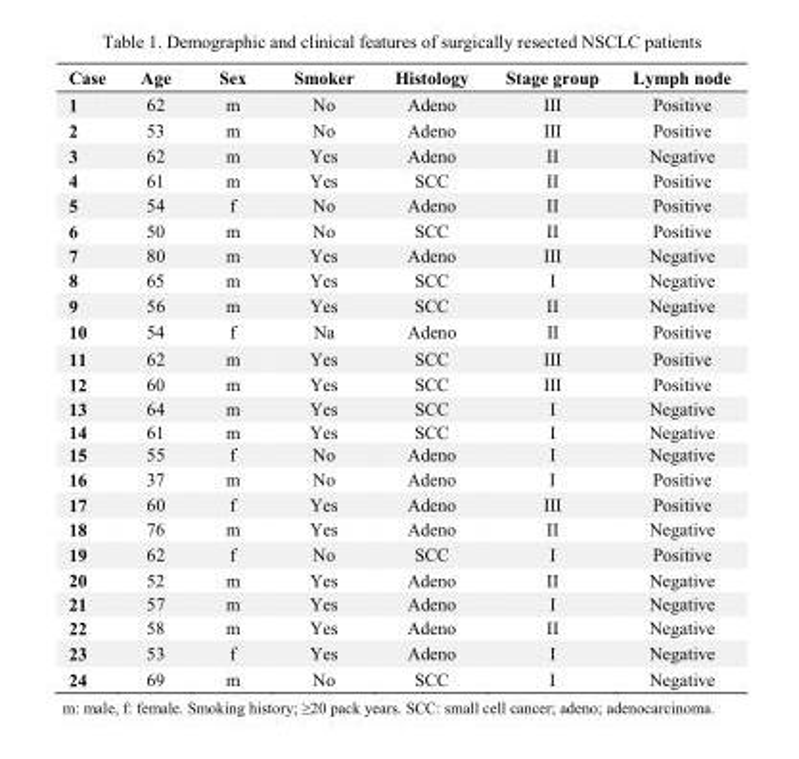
<table><thead><tr><td>Case</td><td>Age</td><td>Sex</td><td>Smoker</td><td>Histology</td><td>Stage group</td><td>Lymph node</td></tr></thead><tbody><tr><td>1</td><td>62</td><td>m</td><td>No</td><td>Adeno</td><td>III</td><td>Positive</td></tr><tr><td>2</td><td>53</td><td>m</td><td>No</td><td>Adeno</td><td>III</td><td>Positive</td></tr><tr><td>3</td><td>62</td><td>m</td><td>Yes</td><td>Adeno</td><td>II</td><td>Negative</td></tr><tr><td>4</td><td>61</td><td>m</td><td>Yes</td><td>SCC</td><td>II</td><td>Positive</td></tr><tr><td>5</td><td>54</td><td>f</td><td>No</td><td>Adeno</td><td>II</td><td>Positive</td></tr><tr><td>6</td><td>50</td><td>m</td><td>No</td><td>SCC</td><td>II</td><td>Positive</td></tr><tr><td>7</td><td>80</td><td>m</td><td>Yes</td><td>Adeno</td><td>III</td><td>Negative</td></tr><tr><td>8</td><td>65</td><td>m</td><td>Yes</td><td>SCC</td><td>I</td><td>Negative</td></tr><tr><td>9</td><td>56</td><td>m</td><td>Yes</td><td>SCC</td><td>II</td><td>Negative</td></tr><tr><td>10</td><td>54</td><td>f</td><td>Na</td><td>Adeno</td><td>II</td><td>Positive</td></tr><tr><td>11</td><td>62</td><td>m</td><td>Yes</td><td>SCC</td><td>III</td><td>Positive</td></tr><tr><td>12</td><td>60</td><td>m</td><td>Yes</td><td>SCC</td><td>III</td><td>Positive</td></tr><tr><td>13</td><td>64</td><td>m</td><td>Yes</td><td>SCC</td><td>I</td><td>Negative</td></tr><tr><td>14</td><td>61</td><td>m</td><td>Yes</td><td>SCC</td><td>I</td><td>Negative</td></tr><tr><td>15</td><td>55</td><td>f</td><td>No</td><td>Adeno</td><td>I</td><td>Negative</td></tr><tr><td>16</td><td>37</td><td>m</td><td>No</td><td>Adeno</td><td>I</td><td>Positive</td></tr><tr><td>17</td><td>60</td><td>f</td><td>Yes</td><td>Adeno</td><td>III</td><td>Positive</td></tr><tr><td>18</td><td>76</td><td>m</td><td>Yes</td><td>Adeno</td><td>II</td><td>Negative</td></tr><tr><td>19</td><td>62</td><td>f</td><td>No</td><td>SCC</td><td>I</td><td>Positive</td></tr><tr><td>20</td><td>52</td><td>m</td><td>Yes</td><td>Adeno</td><td>II</td><td>Negative</td></tr><tr><td>21</td><td>57</td><td>m</td><td>Yes</td><td>Adeno</td><td>I</td><td>Negative</td></tr><tr><td>22</td><td>58</td><td>m</td><td>Yes</td><td>Adeno</td><td>II</td><td>Negative</td></tr><tr><td>23</td><td>53</td><td>f</td><td>Yes</td><td>Adeno</td><td>I</td><td>Negative</td></tr><tr><td>24</td><td>69</td><td>m</td><td>No</td><td>SCC</td><td>I</td><td>Negative</td></tr></tbody></table>